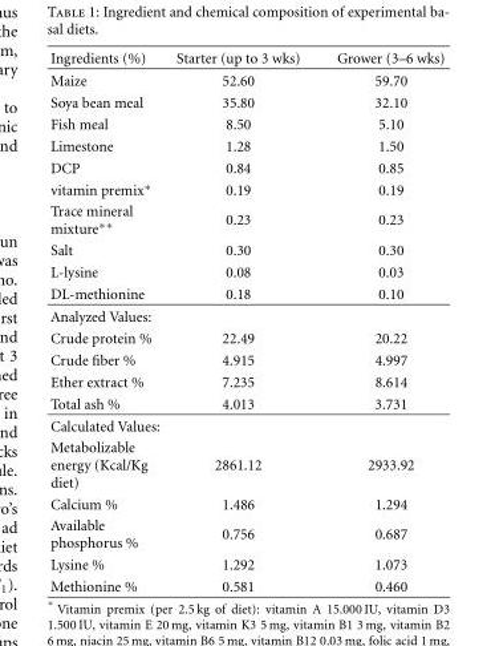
<table><thead><tr><td>Ingredients (%)</td><td>Starter (up to 3 wks)</td><td>Grower (3–6 wks)</td></tr></thead><tbody><tr><td>Maize</td><td>52.60</td><td>59.70</td></tr><tr><td>Soya bean meal</td><td>35.80</td><td>32.10</td></tr><tr><td>Fish meal</td><td>8.50</td><td>5.10</td></tr><tr><td>Limestone</td><td>1.28</td><td>1.50</td></tr><tr><td>DCP</td><td>0.84</td><td>0.85</td></tr><tr><td>vitamin premix∗</td><td>0.19</td><td>0.19</td></tr><tr><td>Trace mineral mixture∗∗</td><td>0.23</td><td>0.23</td></tr><tr><td>Salt</td><td>0.30</td><td>0.30</td></tr><tr><td>L-lysine</td><td>0.08</td><td>0.03</td></tr><tr><td>DL-methionine</td><td>0.18</td><td>0.10</td></tr><tr><td colspan="3">Analyzed Values:</td></tr><tr><td>Crude protein %</td><td>22.49</td><td>20.22</td></tr><tr><td>Crude fiber %</td><td>4.915</td><td>4.997</td></tr><tr><td>Ether extract %</td><td>7.235</td><td>8.614</td></tr><tr><td>Total ash %</td><td>4.013</td><td>3.731</td></tr><tr><td colspan="3">Calculated Values:</td></tr><tr><td>Metabolizable energy (Kcal/Kg diet)</td><td>2861.12</td><td>2933.92</td></tr><tr><td>Calcium %</td><td>1.486</td><td>1.294</td></tr><tr><td>Available phosphorus %</td><td>0.756</td><td>0.687</td></tr><tr><td>Lysine %</td><td>1.292</td><td>1.073</td></tr><tr><td>Methionine %</td><td>0.581</td><td>0.460</td></tr></tbody></table>